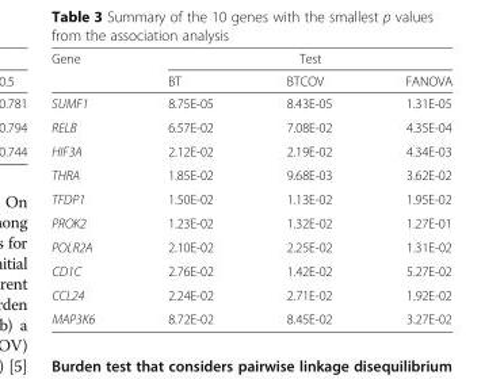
<table><thead><tr><td rowspan="2">Gene</td><td colspan="3">Test</td></tr><tr><td>BT</td><td>BTCOV</td><td>FANOVA</td></tr></thead><tbody><tr><td>SUMF1</td><td>8.75E-05</td><td>8.43E-05</td><td>1.31E-05</td></tr><tr><td>RELB</td><td>6.57E-02</td><td>7.08E-02</td><td>4.35E-04</td></tr><tr><td>HIF3A</td><td>2.12E-02</td><td>2.19E-02</td><td>4.34E-03</td></tr><tr><td>THRA</td><td>1.85E-02</td><td>9.68E-03</td><td>3.62E-02</td></tr><tr><td>TFDP1</td><td>1.50E-02</td><td>1.13E-02</td><td>1.95E-02</td></tr><tr><td>PROK2</td><td>1.23E-02</td><td>1.32E-02</td><td>1.27E-01</td></tr><tr><td>POLR2A</td><td>2.10E-02</td><td>2.25E-02</td><td>1.31E-02</td></tr><tr><td>CD1C</td><td>2.76E-02</td><td>1.42E-02</td><td>5.27E-02</td></tr><tr><td>CCL24</td><td>2.24E-02</td><td>2.71E-02</td><td>1.92E-02</td></tr><tr><td>MAP3K6</td><td>8.72E-02</td><td>8.45E-02</td><td>3.27E-02</td></tr></tbody></table>